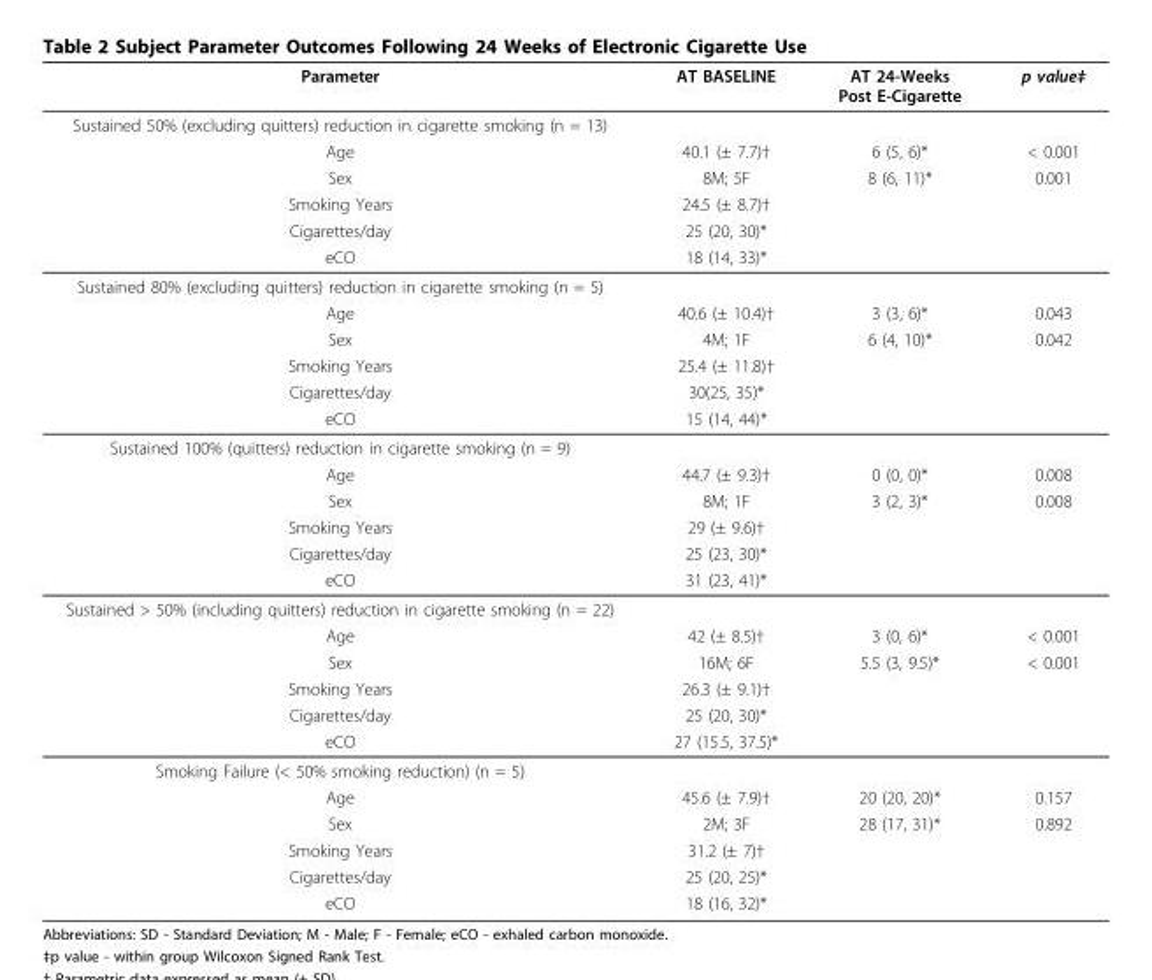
<table><thead><tr><td>Parameter</td><td>AT BASELINE</td><td>AT 24-Weeks Post E-Cigarette</td><td>p value‡</td></tr></thead><tbody><tr><td colspan="4">Sustained 50% (excluding quitters) reduction in cigarette smoking (n = 13)</td></tr><tr><td>Age</td><td>40.1 (± 7.7)†</td><td>6 (5, 6)*</td><td>&lt; 0.001</td></tr><tr><td>Sex</td><td>8M; 5F</td><td>8 (6, 11)*</td><td>0.001</td></tr><tr><td>Smoking Years</td><td>24.5 (± 8.7)†</td><td></td><td></td></tr><tr><td>Cigarettes/day</td><td>25 (20, 30)*</td><td></td><td></td></tr><tr><td>eCO</td><td>18 (14, 33)*</td><td></td><td></td></tr><tr><td colspan="4">Sustained 80% (excluding quitters) reduction in cigarette smoking (n = 5)</td></tr><tr><td>Age</td><td>40.6 (± 10.4)†</td><td>3 (3, 6)*</td><td>0.043</td></tr><tr><td>Sex</td><td>4M; 1F</td><td>6 (4, 10)*</td><td>0.042</td></tr><tr><td>Smoking Years</td><td>25.4 (± 11.8)†</td><td></td><td></td></tr><tr><td>Cigarettes/day</td><td>30(25, 35)*</td><td></td><td></td></tr><tr><td>eCO</td><td>15 (14, 44)*</td><td></td><td></td></tr><tr><td colspan="4">Sustained 100% (quitters) reduction in cigarette smoking (n = 9)</td></tr><tr><td>Age</td><td>44.7 (± 9.3)†</td><td>0 (0, 0)*</td><td>0.008</td></tr><tr><td>Sex</td><td>8M; 1F</td><td>3 (2, 3)*</td><td>0.008</td></tr><tr><td>Smoking Years</td><td>29 (± 9.6)†</td><td></td><td></td></tr><tr><td>Cigarettes/day</td><td>25 (23, 30)*</td><td></td><td></td></tr><tr><td>eCO</td><td>31 (23, 41)*</td><td></td><td></td></tr><tr><td colspan="4">Sustained &gt; 50% (including quitters) reduction in cigarette smoking (n = 22)</td></tr><tr><td>Age</td><td>42 (± 8.5)†</td><td>3 (0, 6)*</td><td>&lt; 0.001</td></tr><tr><td>Sex</td><td>16M; 6F</td><td>5.5 (3, 9.5)*</td><td>&lt; 0.001</td></tr><tr><td>Smoking Years</td><td>26.3 (± 9.1)†</td><td></td><td></td></tr><tr><td>Cigarettes/day</td><td>25 (20, 30)*</td><td></td><td></td></tr><tr><td>eCO</td><td>27 (15.5, 37.5)*</td><td></td><td></td></tr><tr><td colspan="4">Smoking Failure (&lt; 50% smoking reduction) (n = 5)</td></tr><tr><td>Age</td><td>45.6 (± 7.9)†</td><td>20 (20, 20)*</td><td>0.157</td></tr><tr><td>Sex</td><td>2M; 3F</td><td>28 (17, 31)*</td><td>0.892</td></tr><tr><td>Smoking Years</td><td>31.2 (± 7)†</td><td></td><td></td></tr><tr><td>Cigarettes/day</td><td>25 (20, 25)*</td><td></td><td></td></tr><tr><td>eCO</td><td>18 (16, 32)*</td><td></td><td></td></tr></tbody></table>